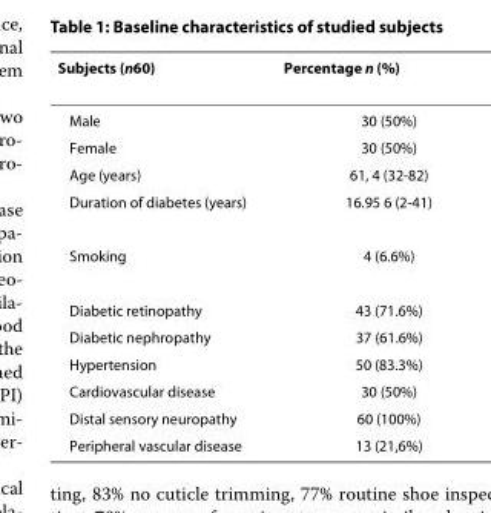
<table><thead><tr><td>Subjects (n60)</td><td>Percentage n (%)</td></tr></thead><tbody><tr><td>Male</td><td>30 (50%)</td></tr><tr><td>Female</td><td>30 (50%)</td></tr><tr><td>Age (years)</td><td>61, 4 (32-82)</td></tr><tr><td>Duration of diabetes (years)</td><td>16.95 6 (2-41)</td></tr><tr><td>Smoking</td><td>4 (6.6%)</td></tr><tr><td>Diabetic retinopathy</td><td>43 (71.6%)</td></tr><tr><td>Diabetic nephropathy</td><td>37 (61.6%)</td></tr><tr><td>Hypertension</td><td>50 (83.3%)</td></tr><tr><td>Cardiovascular disease</td><td>30 (50%)</td></tr><tr><td>Distal sensory neuropathy</td><td>60 (100%)</td></tr><tr><td>Peripheral vascular disease</td><td>13 (21,6%)</td></tr></tbody></table>